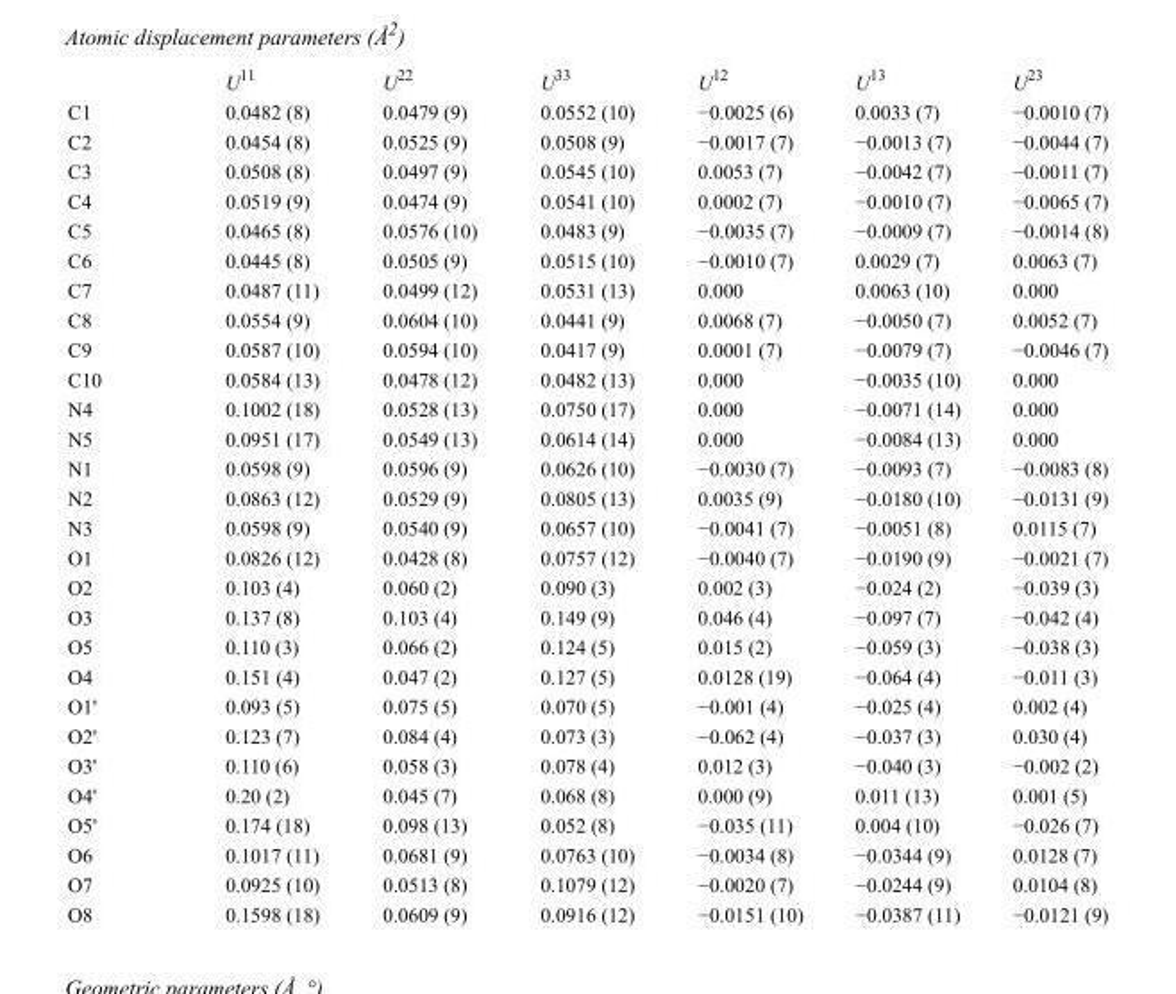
<table><thead><tr><td></td><td>U<sup>11</sup></td><td>U<sup>22</sup></td><td>U<sup>33</sup></td><td>U<sup>12</sup></td><td>U<sup>13</sup></td><td>U<sup>23</sup></td></tr></thead><tbody><tr><td>C1</td><td>0.0482 (8)</td><td>0.0479 (9)</td><td>0.0552 (10)</td><td>−0.0025 (6)</td><td>0.0033 (7)</td><td>−0.0010 (7)</td></tr><tr><td>C2</td><td>0.0454 (8)</td><td>0.0525 (9)</td><td>0.0508 (9)</td><td>−0.0017 (7)</td><td>−0.0013 (7)</td><td>−0.0044 (7)</td></tr><tr><td>C3</td><td>0.0508 (8)</td><td>0.0497 (9)</td><td>0.0545 (10)</td><td>0.0053 (7)</td><td>−0.0042 (7)</td><td>−0.0011 (7)</td></tr><tr><td>C4</td><td>0.0519 (9)</td><td>0.0474 (9)</td><td>0.0541 (10)</td><td>0.0002 (7)</td><td>−0.0010 (7)</td><td>−0.0065 (7)</td></tr><tr><td>C5</td><td>0.0465 (8)</td><td>0.0576 (10)</td><td>0.0483 (9)</td><td>−0.0035 (7)</td><td>−0.0009 (7)</td><td>−0.0014 (8)</td></tr><tr><td>C6</td><td>0.0445 (8)</td><td>0.0505 (9)</td><td>0.0515 (10)</td><td>−0.0010 (7)</td><td>0.0029 (7)</td><td>0.0063 (7)</td></tr><tr><td>C7</td><td>0.0487 (11)</td><td>0.0499 (12)</td><td>0.0531 (13)</td><td>0.000</td><td>0.0063 (10)</td><td>0.000</td></tr><tr><td>C8</td><td>0.0554 (9)</td><td>0.0604 (10)</td><td>0.0441 (9)</td><td>0.0068 (7)</td><td>−0.0050 (7)</td><td>0.0052 (7)</td></tr><tr><td>C9</td><td>0.0587 (10)</td><td>0.0594 (10)</td><td>0.0417 (9)</td><td>0.0001 (7)</td><td>−0.0079 (7)</td><td>−0.0046 (7)</td></tr><tr><td>C10</td><td>0.0584 (13)</td><td>0.0478 (12)</td><td>0.0482 (13)</td><td>0.000</td><td>−0.0035 (10)</td><td>0.000</td></tr><tr><td>N4</td><td>0.1002 (18)</td><td>0.0528 (13)</td><td>0.0750 (17)</td><td>0.000</td><td>−0.0071 (14)</td><td>0.000</td></tr><tr><td>N5</td><td>0.0951 (17)</td><td>0.0549 (13)</td><td>0.0614 (14)</td><td>0.000</td><td>−0.0084 (13)</td><td>0.000</td></tr><tr><td>N1</td><td>0.0598 (9)</td><td>0.0596 (9)</td><td>0.0626 (10)</td><td>−0.0030 (7)</td><td>−0.0093 (7)</td><td>−0.0083 (8)</td></tr><tr><td>N2</td><td>0.0863 (12)</td><td>0.0529 (9)</td><td>0.0805 (13)</td><td>0.0035 (9)</td><td>−0.0180 (10)</td><td>−0.0131 (9)</td></tr><tr><td>N3</td><td>0.0598 (9)</td><td>0.0540 (9)</td><td>0.0657 (10)</td><td>−0.0041 (7)</td><td>−0.0051 (8)</td><td>0.0115 (7)</td></tr><tr><td>O1</td><td>0.0826 (12)</td><td>0.0428 (8)</td><td>0.0757 (12)</td><td>−0.0040 (7)</td><td>−0.0190 (9)</td><td>−0.0021 (7)</td></tr><tr><td>O2</td><td>0.103 (4)</td><td>0.060 (2)</td><td>0.090 (3)</td><td>0.002 (3)</td><td>−0.024 (2)</td><td>−0.039 (3)</td></tr><tr><td>O3</td><td>0.137 (8)</td><td>0.103 (4)</td><td>0.149 (9)</td><td>0.046 (4)</td><td>−0.097 (7)</td><td>−0.042 (4)</td></tr><tr><td>O5</td><td>0.110 (3)</td><td>0.066 (2)</td><td>0.124 (5)</td><td>0.015 (2)</td><td>−0.059 (3)</td><td>−0.038 (3)</td></tr><tr><td>O4</td><td>0.151 (4)</td><td>0.047 (2)</td><td>0.127 (5)</td><td>0.0128 (19)</td><td>−0.064 (4)</td><td>−0.011 (3)</td></tr><tr><td>O1&#x27;</td><td>0.093 (5)</td><td>0.075 (5)</td><td>0.070 (5)</td><td>−0.001 (4)</td><td>−0.025 (4)</td><td>0.002 (4)</td></tr><tr><td>O2&#x27;</td><td>0.123 (7)</td><td>0.084 (4)</td><td>0.073 (3)</td><td>−0.062 (4)</td><td>−0.037 (3)</td><td>0.030 (4)</td></tr><tr><td>O3&#x27;</td><td>0.110 (6)</td><td>0.058 (3)</td><td>0.078 (4)</td><td>0.012 (3)</td><td>−0.040 (3)</td><td>−0.002 (2)</td></tr><tr><td>O4&#x27;</td><td>0.20 (2)</td><td>0.045 (7)</td><td>0.068 (8)</td><td>0.000 (9)</td><td>0.011 (13)</td><td>0.001 (5)</td></tr><tr><td>O5&#x27;</td><td>0.174 (18)</td><td>0.098 (13)</td><td>0.052 (8)</td><td>−0.035 (11)</td><td>0.004 (10)</td><td>−0.026 (7)</td></tr><tr><td>O6</td><td>0.1017 (11)</td><td>0.0681 (9)</td><td>0.0763 (10)</td><td>−0.0034 (8)</td><td>−0.0344 (9)</td><td>0.0128 (7)</td></tr><tr><td>O7</td><td>0.0925 (10)</td><td>0.0513 (8)</td><td>0.1079 (12)</td><td>−0.0020 (7)</td><td>−0.0244 (9)</td><td>0.0104 (8)</td></tr><tr><td>O8</td><td>0.1598 (18)</td><td>0.0609 (9)</td><td>0.0916 (12)</td><td>−0.0151 (10)</td><td>−0.0387 (11)</td><td>−0.0121 (9)</td></tr></tbody></table>